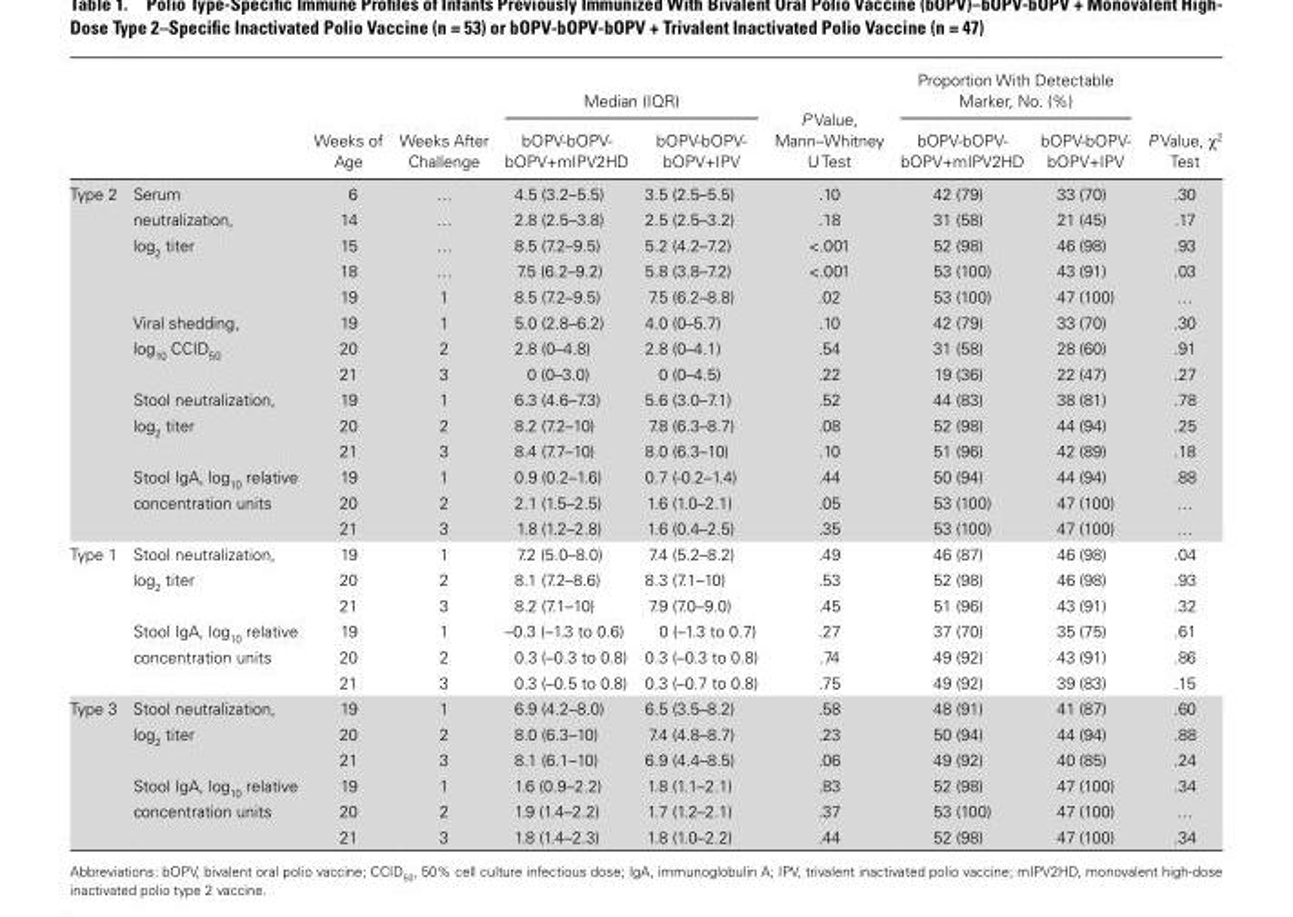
<table><thead><tr><td rowspan="2"></td><td rowspan="2"></td><td rowspan="2">Weeks of Age</td><td rowspan="2">Weeks After Challenge</td><td colspan="2">Median (IQR)</td><td rowspan="2">P Value, Mann–Whitney U Test</td><td colspan="2">Proportion With Detectable Marker, No. (%)</td><td rowspan="2">P Value, χ<sup>2</sup> Test</td></tr><tr><td>bOPV-bOPV- bOPV+mIPV2HD</td><td>bOPV-bOPV- bOPV+IPV</td><td>bOPV-bOPV- bOPV+mIPV2HD</td><td>bOPV-bOPV- bOPV+IPV</td></tr></thead><tbody><tr><td rowspan="14">Type 2</td><td>Serum</td><td>6</td><td>…</td><td>4.5 (3.2–5.5)</td><td>3.5 (2.5–5.5)</td><td>.10</td><td>42 (79)</td><td>33 (70)</td><td>.30</td></tr><tr><td>neutralization,</td><td>14</td><td>…</td><td>2.8 (2.5–3.8)</td><td>2.5 (2.5–3.2)</td><td>.18</td><td>31 (58)</td><td>21 (45)</td><td>.17</td></tr><tr><td>log<sub>2</sub> titer</td><td>15</td><td>…</td><td>8.5 (7.2–9.5)</td><td>5.2 (4.2–7.2)</td><td>&lt;.001</td><td>52 (98)</td><td>46 (98)</td><td>.93</td></tr><tr><td></td><td>18</td><td>…</td><td>7.5 (6.2–9.2)</td><td>5.8 (3.8–7.2)</td><td>&lt;.001</td><td>53 (100)</td><td>43 (91)</td><td>.03</td></tr><tr><td></td><td>19</td><td>1</td><td>8.5 (7.2–9.5)</td><td>7.5 (6.2–8.8)</td><td>.02</td><td>53 (100)</td><td>47 (100)</td><td>…</td></tr><tr><td>Viral shedding,</td><td>19</td><td>1</td><td>5.0 (2.8–6.2)</td><td>4.0 (0–5.7)</td><td>.10</td><td>42 (79)</td><td>33 (70)</td><td>.30</td></tr><tr><td>log<sub>10</sub> CCID<sub>50</sub></td><td>20</td><td>2</td><td>2.8 (0–4.8)</td><td>2.8 (0–4.1)</td><td>.54</td><td>31 (58)</td><td>28 (60)</td><td>.91</td></tr><tr><td></td><td>21</td><td>3</td><td>0 (0–3.0)</td><td>0 (0–4.5)</td><td>.22</td><td>19 (36)</td><td>22 (47)</td><td>.27</td></tr><tr><td>Stool neutralization,</td><td>19</td><td>1</td><td>6.3 (4.6–7.3)</td><td>5.6 (3.0–7.1)</td><td>.52</td><td>44 (83)</td><td>38 (81)</td><td>.78</td></tr><tr><td>log<sub>2</sub> titer</td><td>20</td><td>2</td><td>8.2 (7.2–10)</td><td>7.8 (6.3–8.7)</td><td>.08</td><td>52 (98)</td><td>44 (94)</td><td>.25</td></tr><tr><td></td><td>21</td><td>3</td><td>8.4 (7.7–10)</td><td>8.0 (6.3–10)</td><td>.10</td><td>51 (96)</td><td>42 (89)</td><td>.18</td></tr><tr><td>Stool IgA, log<sub>10</sub> relative</td><td>19</td><td>1</td><td>0.9 (0.2–1.6)</td><td>0.7 (-0.2–1.4)</td><td>.44</td><td>50 (94)</td><td>44 (94)</td><td>.88</td></tr><tr><td>concentration units</td><td>20</td><td>2</td><td>2.1 (1.5–2.5)</td><td>1.6 (1.0–2.1)</td><td>.05</td><td>53 (100)</td><td>47 (100)</td><td>…</td></tr><tr><td></td><td>21</td><td>3</td><td>1.8 (1.2–2.8)</td><td>1.6 (0.4–2.5)</td><td>.35</td><td>53 (100)</td><td>47 (100)</td><td>…</td></tr><tr><td rowspan="6">Type 1</td><td>Stool neutralization,</td><td>19</td><td>1</td><td>7.2 (5.0–8.0)</td><td>7.4 (5.2–8.2)</td><td>.49</td><td>46 (87)</td><td>46 (98)</td><td>.04</td></tr><tr><td rowspan="2">log<sub>2</sub> titer</td><td>20</td><td>2</td><td>8.1 (7.2–8.6)</td><td>8.3 (7.1–10)</td><td>.53</td><td>52 (98)</td><td>46 (98)</td><td>.93</td></tr><tr><td>21</td><td>3</td><td>8.2 (7.1–10)</td><td>7.9 (7.0–9.0)</td><td>.45</td><td>51 (96)</td><td>43 (91)</td><td>.32</td></tr><tr><td>Stool IgA, log<sub>10</sub> relative</td><td>19</td><td>1</td><td>–0.3 (–1.3 to 0.6)</td><td>0 (–1.3 to 0.7)</td><td>.27</td><td>37 (70)</td><td>35 (75)</td><td>.61</td></tr><tr><td rowspan="2">concentration units</td><td>20</td><td>2</td><td>0.3 (–0.3 to 0.8)</td><td>0.3 (–0.3 to 0.8)</td><td>.74</td><td>49 (92)</td><td>43 (91)</td><td>.86</td></tr><tr><td>21</td><td>3</td><td>0.3 (–0.5 to 0.8)</td><td>0.3 (–0.7 to 0.8)</td><td>.75</td><td>49 (92)</td><td>39 (83)</td><td>.15</td></tr><tr><td rowspan="6">Type 3</td><td>Stool neutralization,</td><td>19</td><td>1</td><td>6.9 (4.2–8.0)</td><td>6.5 (3.5–8.2)</td><td>.58</td><td>48 (91)</td><td>41 (87)</td><td>.60</td></tr><tr><td rowspan="2">log<sub>2</sub> titer</td><td>20</td><td>2</td><td>8.0 (6.3–10)</td><td>7.4 (4.8–8.7)</td><td>.23</td><td>50 (94)</td><td>44 (94)</td><td>.88</td></tr><tr><td>21</td><td>3</td><td>8.1 (6.1–10)</td><td>6.9 (4.4–8.5)</td><td>.06</td><td>49 (92)</td><td>40 (85)</td><td>.24</td></tr><tr><td>Stool IgA, log<sub>10</sub> relative</td><td>19</td><td>1</td><td>1.6 (0.9–2.2)</td><td>1.8 (1.1–2.1)</td><td>.83</td><td>52 (98)</td><td>47 (100)</td><td>.34</td></tr><tr><td rowspan="2">concentration units</td><td>20</td><td>2</td><td>1.9 (1.4–2.2)</td><td>1.7 (1.2–2.1)</td><td>.37</td><td>53 (100)</td><td>47 (100)</td><td>…</td></tr><tr><td>21</td><td>3</td><td>1.8 (1.4–2.3)</td><td>1.8 (1.0–2.2)</td><td>.44</td><td>52 (98)</td><td>47 (100)</td><td>.34</td></tr></tbody></table>